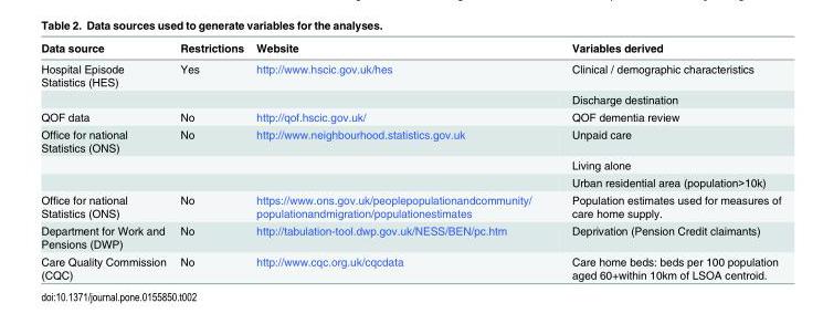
<table><thead><tr><td>Data source</td><td>Restrictions</td><td>Website</td><td>Variables derived</td></tr></thead><tbody><tr><td rowspan="2">Hospital Episode Statistics (HES)</td><td>Yes</td><td>http://www.hscic.gov.uk/hes</td><td>Clinical / demographic characteristics</td></tr><tr><td></td><td></td><td>Discharge destination</td></tr><tr><td>QOF data</td><td>No</td><td>http://qof.hscic.gov.uk/</td><td>QOF dementia review</td></tr><tr><td rowspan="3">Office for national Statistics (ONS)</td><td>No</td><td>http://www.neighbourhood.statistics.gov.uk</td><td>Unpaid care</td></tr><tr><td></td><td></td><td>Living alone</td></tr><tr><td></td><td></td><td>Urban residential area (population&gt;10k)</td></tr><tr><td>Office for national Statistics (ONS)</td><td>No</td><td>https://www.ons.gov.uk/peoplepopulationandcommunity/ populationandmigration/populationestimates</td><td>Population estimates used for measures of care home supply.</td></tr><tr><td>Department for Work and Pensions (DWP)</td><td>No</td><td>http://tabulation-tool.dwp.gov.uk/NESS/BEN/pc.htm</td><td>Deprivation (Pension Credit claimants)</td></tr><tr><td>Care Quality Commission (CQC)</td><td>No</td><td>http://www.cqc.org.uk/cqcdata</td><td>Care home beds: beds per 100 population aged 60+within 10km of LSOA centroid.</td></tr></tbody></table>